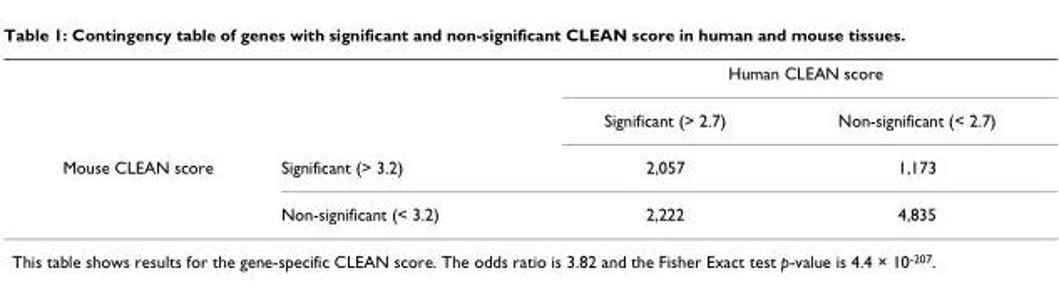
<table><thead><tr><td rowspan="2"></td><td rowspan="2"></td><td colspan="2">Human CLEAN score</td></tr><tr><td>Significant (&gt; 2.7)</td><td>Non-significant (&lt; 2.7)</td></tr></thead><tbody><tr><td rowspan="2">Mouse CLEAN score</td><td>Significant (&gt; 3.2)</td><td>2,057</td><td>1,173</td></tr><tr><td>Non-significant (&lt; 3.2)</td><td>2,222</td><td>4,835</td></tr></tbody></table>